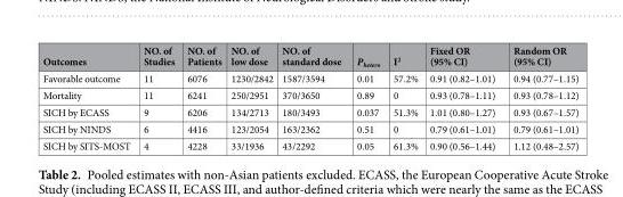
<table><thead><tr><td>Outcomes</td><td>NO. of Studies</td><td>NO. of Patients</td><td>NO. of low dose</td><td>NO. of standard dose</td><td>P<sub>hetero</sub></td><td>I<sup>2</sup></td><td>Fixed OR (95% CI)</td><td>Random OR (95% CI)</td></tr></thead><tbody><tr><td>Favorable outcome</td><td>11</td><td>6076</td><td>1230/2842</td><td>1587/3594</td><td>0.01</td><td>57.2%</td><td>0.91 (0.82–1.01)</td><td>0.94 (0.77–1.15)</td></tr><tr><td>Mortality</td><td>11</td><td>6241</td><td>250/2951</td><td>370/3650</td><td>0.89</td><td>0</td><td>0.93 (0.78–1.11)</td><td>0.93 (0.78–1.12)</td></tr><tr><td>SICH by ECASS</td><td>9</td><td>6206</td><td>134/2713</td><td>180/3493</td><td>0.037</td><td>51.3%</td><td>1.01 (0.80–1.27)</td><td>0.93 (0.67–1.57)</td></tr><tr><td>SICH by NINDS</td><td>6</td><td>4416</td><td>123/2054</td><td>163/2362</td><td>0.51</td><td>0</td><td>0.79 (0.61–1.01)</td><td>0.79 (0.61–1.01)</td></tr><tr><td>SICH by SITS-MOST</td><td>4</td><td>4228</td><td>33/1936</td><td>43/2292</td><td>0.05</td><td>61.3%</td><td>0.90 (0.56–1.44)</td><td>1.12 (0.48–2.57)</td></tr></tbody></table>